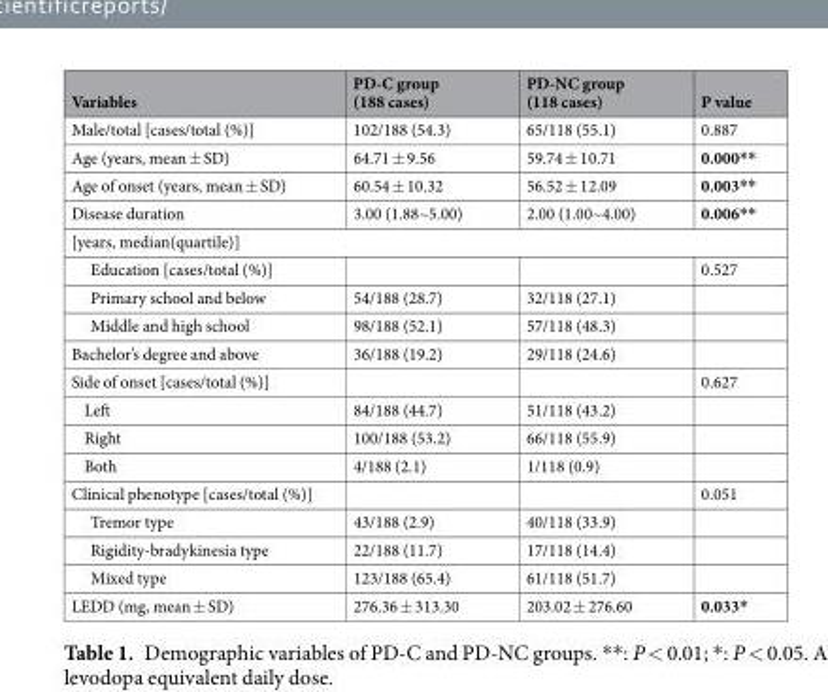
<table><thead><tr><td>Variables</td><td>PD-C group (188 cases)</td><td>PD-NC group (118 cases)</td><td>P value</td></tr></thead><tbody><tr><td>Male/total [cases/total (%)]</td><td>102/188 (54.3)</td><td>65/118 (55.1)</td><td>0.887</td></tr><tr><td>Age (years, mean ± SD)</td><td>64.71 ± 9.56</td><td>59.74 ± 10.71</td><td>0.000**</td></tr><tr><td>Age of onset (years, mean ± SD)</td><td>60.54 ± 10.32</td><td>56.52 ± 12.09</td><td>0.003**</td></tr><tr><td>Disease duration</td><td>3.00 (1.88~5.00)</td><td>2.00 (1.00~4.00)</td><td>0.006**</td></tr><tr><td colspan="4">[years, median(quartile)]</td></tr><tr><td>Education [cases/total (%)]</td><td></td><td></td><td>0.527</td></tr><tr><td>Primary school and below</td><td>54/188 (28.7)</td><td>32/118 (27.1)</td><td></td></tr><tr><td>Middle and high school</td><td>98/188 (52.1)</td><td>57/118 (48.3)</td><td></td></tr><tr><td>Bachelor’s degree and above</td><td>36/188 (19.2)</td><td>29/118 (24.6)</td><td></td></tr><tr><td>Side of onset [cases/total (%)]</td><td></td><td></td><td>0.627</td></tr><tr><td>Left</td><td>84/188 (44.7)</td><td>51/118 (43.2)</td><td></td></tr><tr><td>Right</td><td>100/188 (53.2)</td><td>66/118 (55.9)</td><td></td></tr><tr><td>Both</td><td>4/188 (2.1)</td><td>1/118 (0.9)</td><td></td></tr><tr><td>Clinical phenotype [cases/total (%)]</td><td></td><td></td><td>0.051</td></tr><tr><td>Tremor type</td><td>43/188 (2.9)</td><td>40/118 (33.9)</td><td></td></tr><tr><td>Rigidity-bradykinesia type</td><td>22/188 (11.7)</td><td>17/118 (14.4)</td><td></td></tr><tr><td>Mixed type</td><td>123/188 (65.4)</td><td>61/118 (51.7)</td><td></td></tr><tr><td>LEDD (mg, mean ± SD)</td><td>276.36 ± 313.30</td><td>203.02 ± 276.60</td><td>0.033*</td></tr></tbody></table>